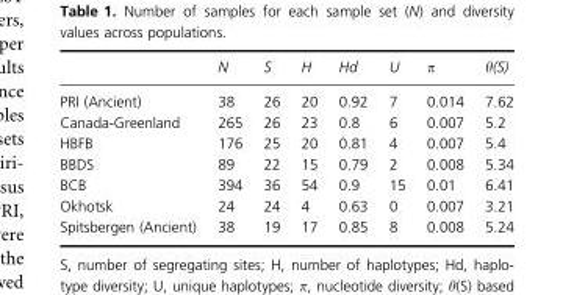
<table><thead><tr><td></td><td>N</td><td>S</td><td>H</td><td>Hd</td><td>U</td><td>π</td><td>θ(S)</td></tr></thead><tbody><tr><td>PRI (Ancient)</td><td>38</td><td>26</td><td>20</td><td>0.92</td><td>7</td><td>0.014</td><td>7.62</td></tr><tr><td>Canada-Greenland</td><td>265</td><td>26</td><td>23</td><td>0.8</td><td>6</td><td>0.007</td><td>5.2</td></tr><tr><td>HBFB</td><td>176</td><td>25</td><td>20</td><td>0.81</td><td>4</td><td>0.007</td><td>5.4</td></tr><tr><td>BBDS</td><td>89</td><td>22</td><td>15</td><td>0.79</td><td>2</td><td>0.008</td><td>5.34</td></tr><tr><td>BCB</td><td>394</td><td>36</td><td>54</td><td>0.9</td><td>15</td><td>0.01</td><td>6.41</td></tr><tr><td>Okhotsk</td><td>24</td><td>24</td><td>4</td><td>0.63</td><td>0</td><td>0.007</td><td>3.21</td></tr><tr><td>Spitsbergen (Ancient)</td><td>38</td><td>19</td><td>17</td><td>0.85</td><td>8</td><td>0.008</td><td>5.24</td></tr></tbody></table>